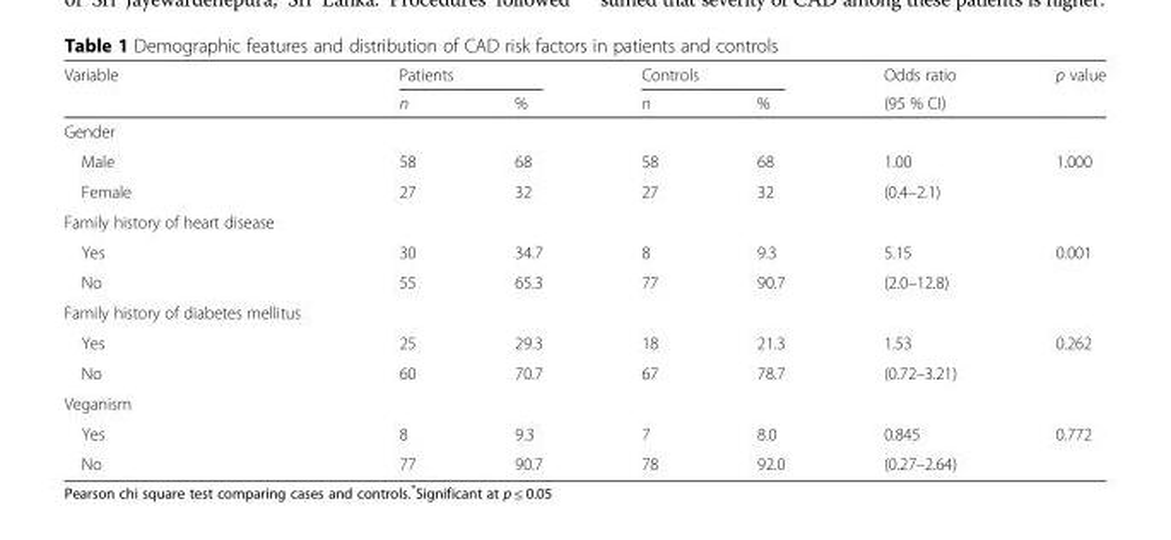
<table><thead><tr><td rowspan="2">Variable</td><td colspan="2">Patients</td><td colspan="2">Controls</td><td rowspan="2">Odds ratio (95 % CI)</td><td rowspan="2">p value</td></tr><tr><td>n</td><td>%</td><td>n</td><td>%</td></tr></thead><tbody><tr><td colspan="7">Gender</td></tr><tr><td>Male</td><td>58</td><td>68</td><td>58</td><td>68</td><td>1.00</td><td>1.000</td></tr><tr><td>Female</td><td>27</td><td>32</td><td>27</td><td>32</td><td>(0.4–2.1)</td><td></td></tr><tr><td colspan="7">Family history of heart disease</td></tr><tr><td>Yes</td><td>30</td><td>34.7</td><td>8</td><td>9.3</td><td>5.15</td><td>0.001</td></tr><tr><td>No</td><td>55</td><td>65.3</td><td>77</td><td>90.7</td><td>(2.0–12.8)</td><td></td></tr><tr><td colspan="7">Family history of diabetes mellitus</td></tr><tr><td>Yes</td><td>25</td><td>29.3</td><td>18</td><td>21.3</td><td>1.53</td><td>0.262</td></tr><tr><td>No</td><td>60</td><td>70.7</td><td>67</td><td>78.7</td><td>(0.72–3.21)</td><td></td></tr><tr><td colspan="7">Veganism</td></tr><tr><td>Yes</td><td>8</td><td>9.3</td><td>7</td><td>8.0</td><td>0.845</td><td>0.772</td></tr><tr><td>No</td><td>77</td><td>90.7</td><td>78</td><td>92.0</td><td>(0.27–2.64)</td><td></td></tr></tbody></table>